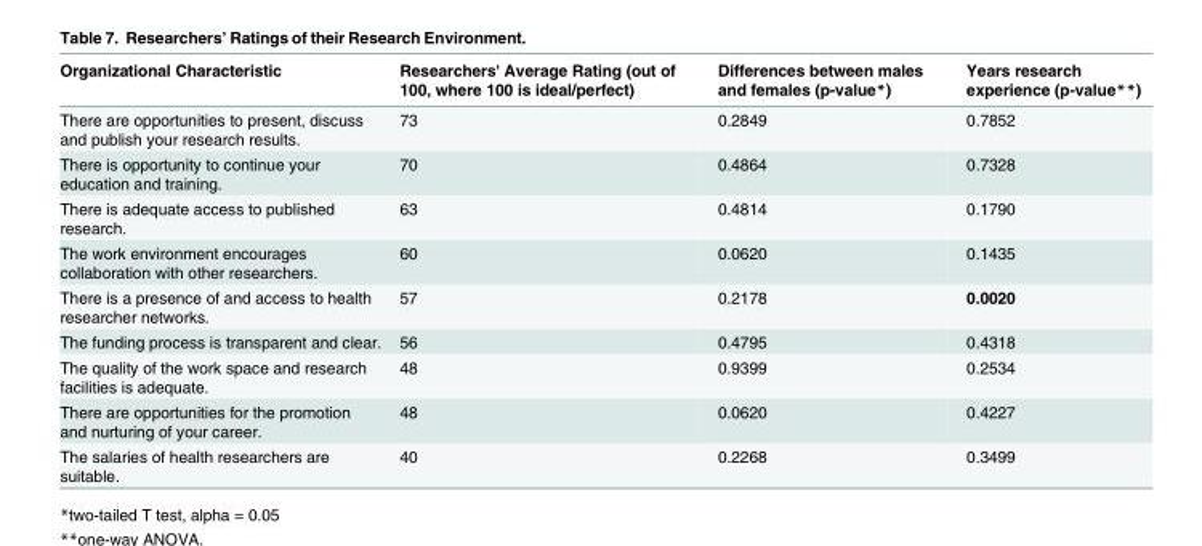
<table><thead><tr><td>Organizational Characteristic</td><td>Researchers&#x27; Average Rating (out of 100, where 100 is ideal/perfect)</td><td>Differences between males and females (p-value*)</td><td>Years research experience (p-value**)</td></tr></thead><tbody><tr><td>There are opportunities to present, discuss and publish your research results.</td><td>73</td><td>0.2849</td><td>0.7852</td></tr><tr><td>There is opportunity to continue your education and training.</td><td>70</td><td>0.4864</td><td>0.7328</td></tr><tr><td>There is adequate access to published research.</td><td>63</td><td>0.4814</td><td>0.1790</td></tr><tr><td>The work environment encourages collaboration with other researchers.</td><td>60</td><td>0.0620</td><td>0.1435</td></tr><tr><td>There is a presence of and access to health researcher networks.</td><td>57</td><td>0.2178</td><td>0.0020</td></tr><tr><td>The funding process is transparent and clear.</td><td>56</td><td>0.4795</td><td>0.4318</td></tr><tr><td>The quality of the work space and research facilities is adequate.</td><td>48</td><td>0.9399</td><td>0.2534</td></tr><tr><td>There are opportunities for the promotion and nurturing of your career.</td><td>48</td><td>0.0620</td><td>0.4227</td></tr><tr><td>The salaries of health researchers are suitable.</td><td>40</td><td>0.2268</td><td>0.3499</td></tr></tbody></table>